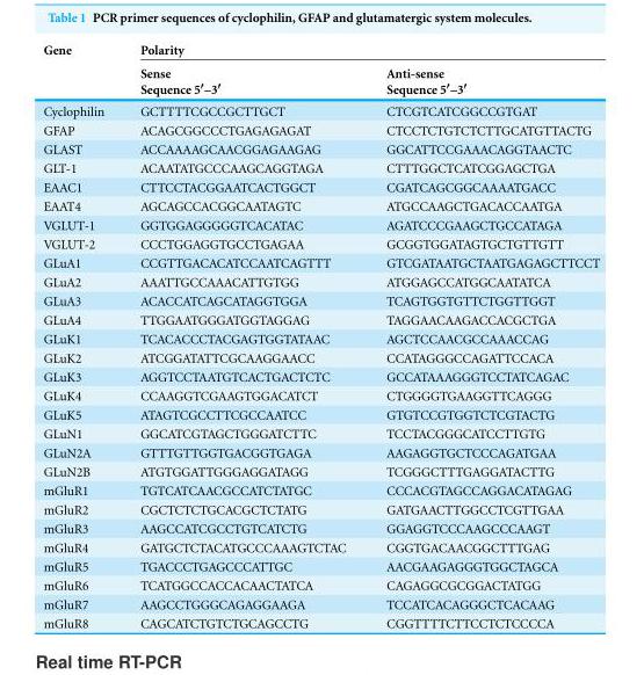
<table><thead><tr><td rowspan="2">Gene</td><td colspan="2">Polarity</td></tr><tr><td>Sense Sequence 5′–3′</td><td>Anti-sense Sequence 5′–3′</td></tr></thead><tbody><tr><td>Cyclophilin</td><td>GCTTTTCGCCGCTTGCT</td><td>CTCGTCATCGGCCGTGAT</td></tr><tr><td>GFAP</td><td>ACAGCGGCCCTGAGAGAGAT</td><td>CTCCTCTGTCTCTTGCATGTTACTG</td></tr><tr><td>GLAST</td><td>ACCAAAAGCAACGGAGAAGAG</td><td>GGCATTCCGAAACAGGTAACTC</td></tr><tr><td>GLT-1</td><td>ACAATATGCCCAAGCAGGTAGA</td><td>CTTTGGCTCATCGGAGCTGA</td></tr><tr><td>EAAC1</td><td>CTTCCTACGGAATCACTGGCT</td><td>CGATCAGCGGCAAAATGACC</td></tr><tr><td>EAAT4</td><td>AGCAGCCACGGCAATAGTC</td><td>ATGCCAAGCTGACACCAATGA</td></tr><tr><td>VGLUT-1</td><td>GGTGGAGGGGGTCACATAC</td><td>AGATCCCGAAGCTGCCATAGA</td></tr><tr><td>VGLUT-2</td><td>CCCTGGAGGTGCCTGAGAA</td><td>GCGGTGGATAGTGCTGTTGTT</td></tr><tr><td>GLuA1</td><td>CCGTTGACACATCCAATCAGTTT</td><td>GTCGATAATGCTAATGAGAGCTTCCT</td></tr><tr><td>GLuA2</td><td>AAATTGCCAAACATTGTGG</td><td>ATGGAGCCATGGCAATATCA</td></tr><tr><td>GLuA3</td><td>ACACCATCAGCATAGGTGGA</td><td>TCAGTGGTGTTCTGGTTGGT</td></tr><tr><td>GLuA4</td><td>TTGGAATGGGATGGTAGGAG</td><td>TAGGAACAAGACCACGCTGA</td></tr><tr><td>GLuK1</td><td>TCACACCCTACGAGTGGTATAAC</td><td>AGCTCCAACGCCAAACCAG</td></tr><tr><td>GLuK2</td><td>ATCGGATATTCGCAAGGAACC</td><td>CCATAGGGCCAGATTCCACA</td></tr><tr><td>GLuK3</td><td>AGGTCCTAATGTCACTGACTCTC</td><td>GCCATAAAGGGTCCTATCAGAC</td></tr><tr><td>GLuK4</td><td>CCAAGGTCGAAGTGGACATCT</td><td>CTGGGGTGAAGGTTCAGGG</td></tr><tr><td>GLuK5</td><td>ATAGTCGCCTTCGCCAATCC</td><td>GTGTCCGTGGTCTCGTACTG</td></tr><tr><td>GLuN1</td><td>GGCATCGTAGCTGGGATCTTC</td><td>TCCTACGGGCATCCTTGTG</td></tr><tr><td>GLuN2A</td><td>GTTTGTTGGTGACGGTGAGA</td><td>AAGAGGTGCTCCCAGATGAA</td></tr><tr><td>GLuN2B</td><td>ATGTGGATTGGGAGGATAGG</td><td>TCGGGCTTTGAGGATACTTG</td></tr><tr><td>mGluR1</td><td>TGTCATCAACGCCATCTATGC</td><td>CCCACGTAGCCAGGACATAGAG</td></tr><tr><td>mGluR2</td><td>CGCTCTCTGCACGCTCTATG</td><td>GATGAACTTGGCCTCGTTGAA</td></tr><tr><td>mGluR3</td><td>AAGCCATCGCCTGTCATCTG</td><td>GGAGGTCCCAAGCCCAAGT</td></tr><tr><td>mGluR4</td><td>GATGCTCTACATGCCCAAAGTCTAC</td><td>CGGTGACAACGGCTTTGAG</td></tr><tr><td>mGluR5</td><td>TGACCCTGAGCCCATTGC</td><td>AACGAAGAGGGTGGCTAGCA</td></tr><tr><td>mGluR6</td><td>TCATGGCCACCACAACTATCA</td><td>CAGAGGCGCGGACTATGG</td></tr><tr><td>mGluR7</td><td>AAGCCTGGGCAGAGGAAGA</td><td>TCCATCACAGGGCTCACAAG</td></tr><tr><td>mGluR8</td><td>CAGCATCTGTCTGCAGCCTG</td><td>CGGTTTTCTTCCTCTCCCCA</td></tr></tbody></table>